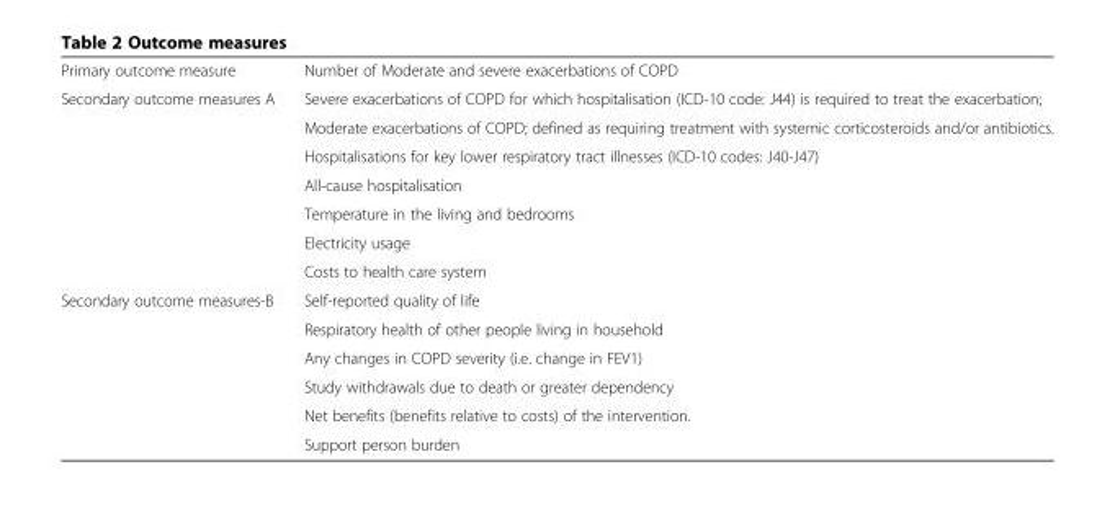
<table><tbody><tr><td>Primary outcome measure</td><td>Number of Moderate and severe exacerbations of COPD</td></tr><tr><td rowspan="7">Secondary outcome measures A</td><td>Severe exacerbations of COPD for which hospitalisation (ICD-10 code: J44) is required to treat the exacerbation;</td></tr><tr><td>Moderate exacerbations of COPD; defined as requiring treatment with systemic corticosteroids and/or antibiotics.</td></tr><tr><td>Hospitalisations for key lower respiratory tract illnesses (ICD-10 codes: J40-J47)</td></tr><tr><td>All-cause hospitalisation</td></tr><tr><td>Temperature in the living and bedrooms</td></tr><tr><td>Electricity usage</td></tr><tr><td>Costs to health care system</td></tr><tr><td rowspan="6">Secondary outcome measures-B</td><td>Self-reported quality of life</td></tr><tr><td>Respiratory health of other people living in household</td></tr><tr><td>Any changes in COPD severity (i.e. change in FEV1)</td></tr><tr><td>Study withdrawals due to death or greater dependency</td></tr><tr><td>Net benefits (benefits relative to costs) of the intervention.</td></tr><tr><td>Support person burden</td></tr></tbody></table>